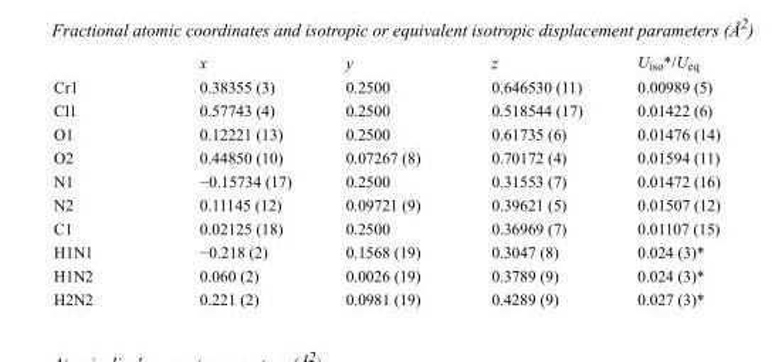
<table><thead><tr><td></td><td>x</td><td>y</td><td>z</td><td>U<sub>iso</sub>*/U<sub>eq</sub></td></tr></thead><tbody><tr><td>Cr1</td><td>0.38355 (3)</td><td>0.2500</td><td>0.646530 (11)</td><td>0.00989 (5)</td></tr><tr><td>Cl1</td><td>0.57743 (4)</td><td>0.2500</td><td>0.518544 (17)</td><td>0.01422 (6)</td></tr><tr><td>O1</td><td>0.12221 (13)</td><td>0.2500</td><td>0.61735 (6)</td><td>0.01476 (14)</td></tr><tr><td>O2</td><td>0.44850 (10)</td><td>0.07267 (8)</td><td>0.70172 (4)</td><td>0.01594 (11)</td></tr><tr><td>N1</td><td>−0.15734 (17)</td><td>0.2500</td><td>0.31553 (7)</td><td>0.01472 (16)</td></tr><tr><td>N2</td><td>0.11145 (12)</td><td>0.09721 (9)</td><td>0.39621 (5)</td><td>0.01507 (12)</td></tr><tr><td>C1</td><td>0.02125 (18)</td><td>0.2500</td><td>0.36969 (7)</td><td>0.01107 (15)</td></tr><tr><td>H1N1</td><td>−0.218 (2)</td><td>0.1568 (19)</td><td>0.3047 (8)</td><td>0.024 (3)*</td></tr><tr><td>H1N2</td><td>0.060 (2)</td><td>0.0026 (19)</td><td>0.3789 (9)</td><td>0.024 (3)*</td></tr><tr><td>H2N2</td><td>0.221 (2)</td><td>0.0981 (19)</td><td>0.4289 (9)</td><td>0.027 (3)*</td></tr></tbody></table>